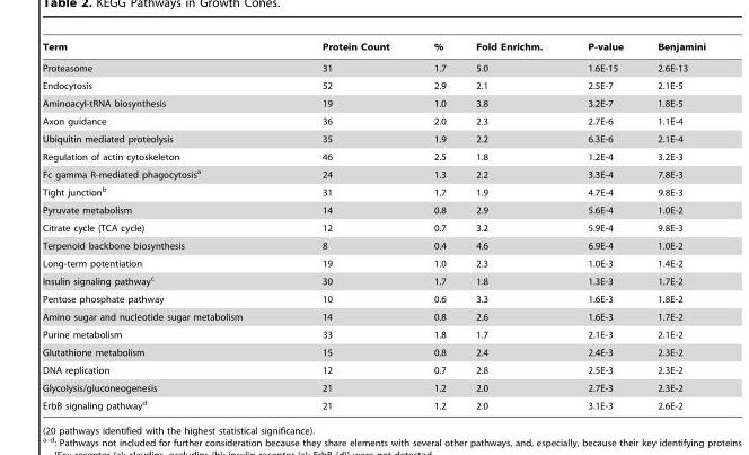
<table><thead><tr><td>Term</td><td>Protein Count</td><td>%</td><td>Fold Enrichm.</td><td>P-value</td><td>Benjamini</td></tr></thead><tbody><tr><td>Proteasome</td><td>31</td><td>1.7</td><td>5.0</td><td>1.6E-15</td><td>2.6E-13</td></tr><tr><td>Endocytosis</td><td>52</td><td>2.9</td><td>2.1</td><td>2.5E-7</td><td>2.1E-5</td></tr><tr><td>Aminoacyl-tRNA biosynthesis</td><td>19</td><td>1.0</td><td>3.8</td><td>3.2E-7</td><td>1.8E-5</td></tr><tr><td>Axon guidance</td><td>36</td><td>2.0</td><td>2.3</td><td>2.7E-6</td><td>1.1E-4</td></tr><tr><td>Ubiquitin mediated proteolysis</td><td>35</td><td>1.9</td><td>2.2</td><td>6.3E-6</td><td>2.1E-4</td></tr><tr><td>Regulation of actin cytoskeleton</td><td>46</td><td>2.5</td><td>1.8</td><td>1.2E-4</td><td>3.2E-3</td></tr><tr><td>Fc gamma R-mediated phagocytosis<sup>a</sup></td><td>24</td><td>1.3</td><td>2.2</td><td>3.3E-4</td><td>7.8E-3</td></tr><tr><td>Tight junction<sup>b</sup></td><td>31</td><td>1.7</td><td>1.9</td><td>4.7E-4</td><td>9.8E-3</td></tr><tr><td>Pyruvate metabolism</td><td>14</td><td>0.8</td><td>2.9</td><td>5.6E-4</td><td>1.0E-2</td></tr><tr><td>Citrate cycle (TCA cycle)</td><td>12</td><td>0.7</td><td>3.2</td><td>5.9E-4</td><td>9.8E-3</td></tr><tr><td>Terpenoid backbone biosynthesis</td><td>8</td><td>0.4</td><td>4.6</td><td>6.9E-4</td><td>1.0E-2</td></tr><tr><td>Long-term potentiation</td><td>19</td><td>1.0</td><td>2.3</td><td>1.0E-3</td><td>1.4E-2</td></tr><tr><td>Insulin signaling pathway<sup>c</sup></td><td>30</td><td>1.7</td><td>1.8</td><td>1.3E-3</td><td>1.7E-2</td></tr><tr><td>Pentose phosphate pathway</td><td>10</td><td>0.6</td><td>3.3</td><td>1.6E-3</td><td>1.8E-2</td></tr><tr><td>Amino sugar and nucleotide sugar metabolism</td><td>14</td><td>0.8</td><td>2.6</td><td>1.6E-3</td><td>1.7E-2</td></tr><tr><td>Purine metabolism</td><td>33</td><td>1.8</td><td>1.7</td><td>2.1E-3</td><td>2.1E-2</td></tr><tr><td>Glutathione metabolism</td><td>15</td><td>0.8</td><td>2.4</td><td>2.4E-3</td><td>2.3E-2</td></tr><tr><td>DNA replication</td><td>12</td><td>0.7</td><td>2.8</td><td>2.5E-3</td><td>2.3E-2</td></tr><tr><td>Glycolysis/gluconeogenesis</td><td>21</td><td>1.2</td><td>2.0</td><td>2.7E-3</td><td>2.3E-2</td></tr><tr><td>ErbB signaling pathway<sup>d</sup></td><td>21</td><td>1.2</td><td>2.0</td><td>3.1E-3</td><td>2.6E-2</td></tr></tbody></table>